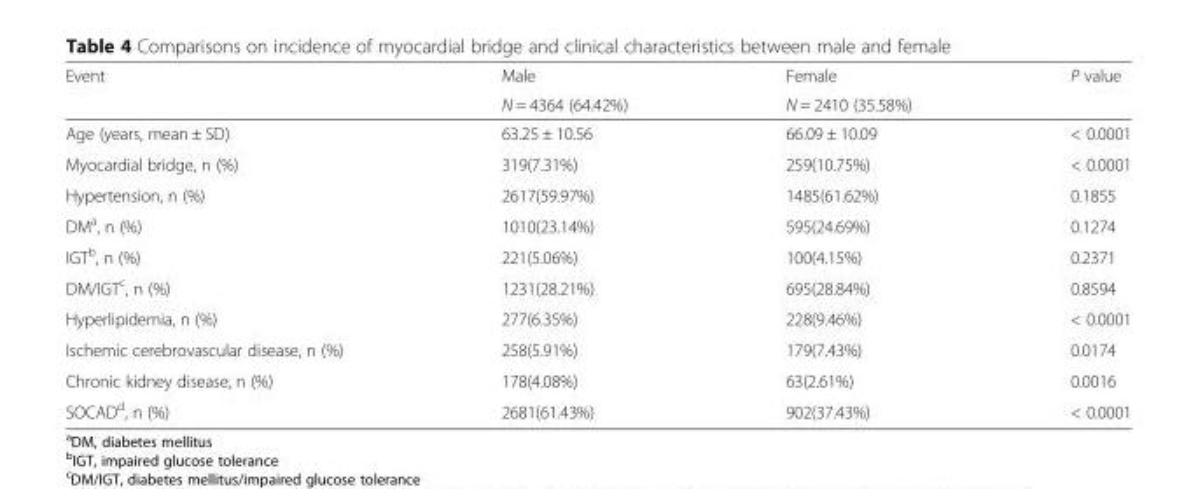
<table><thead><tr><td rowspan="2">Event</td><td rowspan="2">Male N = 4364 (64.42%)</td><td rowspan="2">Female N = 2410 (35.58%)</td><td rowspan="2">P value</td></tr><tr></tr></thead><tbody><tr><td>Age (years, mean ± SD)</td><td>63.25 ± 10.56</td><td>66.09 ± 10.09</td><td>&lt; 0.0001</td></tr><tr><td>Myocardial bridge, n (%)</td><td>319(7.31%)</td><td>259(10.75%)</td><td>&lt; 0.0001</td></tr><tr><td>Hypertension, n (%)</td><td>2617(59.97%)</td><td>1485(61.62%)</td><td>0.1855</td></tr><tr><td>DM<sup>a</sup>, n (%)</td><td>1010(23.14%)</td><td>595(24.69%)</td><td>0.1274</td></tr><tr><td>IGT<sup>b</sup>, n (%)</td><td>221(5.06%)</td><td>100(4.15%)</td><td>0.2371</td></tr><tr><td>DM/IGT<sup>c</sup>, n (%)</td><td>1231(28.21%)</td><td>695(28.84%)</td><td>0.8594</td></tr><tr><td>Hyperlipidemia, n (%)</td><td>277(6.35%)</td><td>228(9.46%)</td><td>&lt; 0.0001</td></tr><tr><td>Ischemic cerebrovascular disease, n (%)</td><td>258(5.91%)</td><td>179(7.43%)</td><td>0.0174</td></tr><tr><td>Chronic kidney disease, n (%)</td><td>178(4.08%)</td><td>63(2.61%)</td><td>0.0016</td></tr><tr><td>SOCAD<sup>d</sup>, n (%)</td><td>2681(61.43%)</td><td>902(37.43%)</td><td>&lt; 0.0001</td></tr></tbody></table>